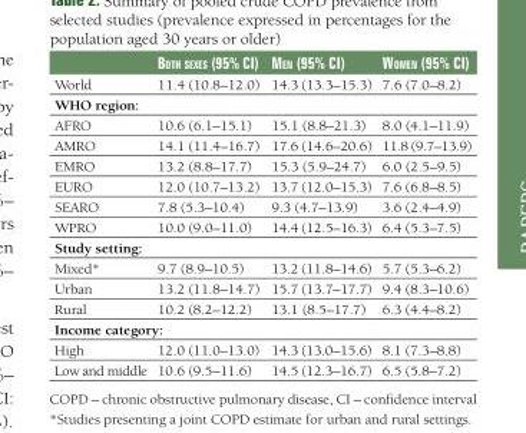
<table><thead><tr><td></td><td>Both sexes (95% Ci)</td><td>Men (95% Ci)</td><td>WoMen (95% Ci)</td></tr></thead><tbody><tr><td>World</td><td>11.4 (10.8–12.0)</td><td>14.3 (13.3–15.3)</td><td>7.6 (7.0–8.2)</td></tr><tr><td colspan="4">WHO region:</td></tr><tr><td>AFRO</td><td>10.6 (6.1–15.1)</td><td>15.1 (8.8–21.3)</td><td>8.0 (4.1–11.9)</td></tr><tr><td>AMRO</td><td>14.1 (11.4–16.7)</td><td>17.6 (14.6–20.6)</td><td>11.8 (9.7–13.9)</td></tr><tr><td>EMRO</td><td>13.2 (8.8–17.7)</td><td>15.3 (5.9–24.7)</td><td>6.0 (2.5–9.5)</td></tr><tr><td>EURO</td><td>12.0 (10.7–13.2)</td><td>13.7 (12.0–15.3)</td><td>7.6 (6.8–8.5)</td></tr><tr><td>SEARO</td><td>7.8 (5.3–10.4)</td><td>9.3 (4.7–13.9)</td><td>3.6 (2.4–4.9)</td></tr><tr><td>WPRO</td><td>10.0 (9.0–11.0)</td><td>14.4 (12.5–16.3)</td><td>6.4 (5.3–7.5)</td></tr><tr><td colspan="4">Study setting:</td></tr><tr><td>Mixed*</td><td>9.7 (8.9–10.5)</td><td>13.2 (11.8–14.6)</td><td>5.7 (5.3–6.2)</td></tr><tr><td>Urban</td><td>13.2 (11.8–14.7)</td><td>15.7 (13.7–17.7)</td><td>9.4 (8.3–10.6)</td></tr><tr><td>Rural</td><td>10.2 (8.2–12.2)</td><td>13.1 (8.5–17.7)</td><td>6.3 (4.4–8.2)</td></tr><tr><td colspan="4">Income category:</td></tr><tr><td>High</td><td>12.0 (11.0–13.0)</td><td>14.3 (13.0–15.6)</td><td>8.1 (7.3–8.8)</td></tr><tr><td>Low and middle</td><td>10.6 (9.5–11.6)</td><td>14.5 (12.3–16.7)</td><td>6.5 (5.8–7.2)</td></tr></tbody></table>